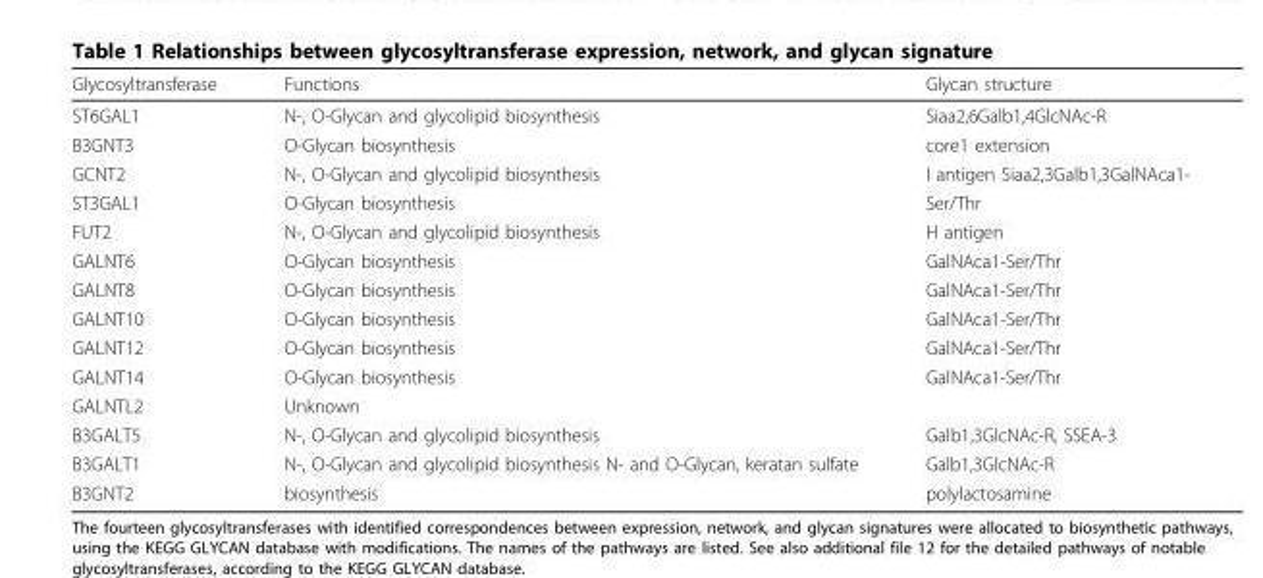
<table><thead><tr><td>Glycosyltransferase</td><td>Functions</td><td>Glycan structure</td></tr></thead><tbody><tr><td>ST6GAL1</td><td>N-, O-Glycan and glycolipid biosynthesis</td><td>Siaa2,6Galb1,4GlcNAc-R</td></tr><tr><td>B3GNT3</td><td>O-Glycan biosynthesis</td><td>core1 extension</td></tr><tr><td>GCNT2</td><td>N-, O-Glycan and glycolipid biosynthesis</td><td>I antigen Siaa2,3Galb1,3GalNAca1-</td></tr><tr><td>ST3GAL1</td><td>O-Glycan biosynthesis</td><td>Ser/Thr</td></tr><tr><td>FUT2</td><td>N-, O-Glycan and glycolipid biosynthesis</td><td>H antigen</td></tr><tr><td>GALNT6</td><td>O-Glycan biosynthesis</td><td>GalNAca1-Ser/Thr</td></tr><tr><td>GALNT8</td><td>O-Glycan biosynthesis</td><td>GalNAca1-Ser/Thr</td></tr><tr><td>GALNT10</td><td>O-Glycan biosynthesis</td><td>GalNAca1-Ser/Thr</td></tr><tr><td>GALNT12</td><td>O-Glycan biosynthesis</td><td>GalNAca1-Ser/Thr</td></tr><tr><td>GALNT14</td><td>O-Glycan biosynthesis</td><td>GalNAca1-Ser/Thr</td></tr><tr><td>GALNTL2</td><td>Unknown</td><td></td></tr><tr><td>B3GALT5</td><td>N-, O-Glycan and glycolipid biosynthesis</td><td>Galb1,3GlcNAc-R, SSEA-3</td></tr><tr><td>B3GALT1</td><td>N-, O-Glycan and glycolipid biosynthesis N- and O-Glycan, keratan sulfate</td><td>Galb1,3GlcNAc-R</td></tr><tr><td>B3GNT2</td><td>biosynthesis</td><td>polylactosamine</td></tr></tbody></table>